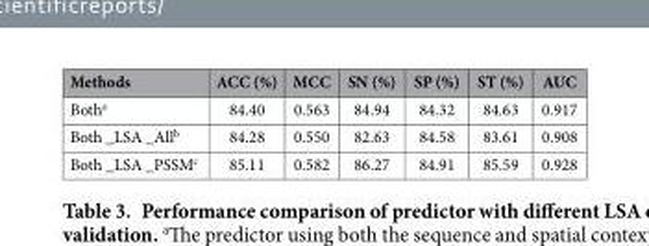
<table><thead><tr><td>Methods</td><td>ACC (%)</td><td>MCC</td><td>SN (%)</td><td>SP (%)</td><td>ST (%)</td><td>AUC</td></tr></thead><tbody><tr><td>Both<sup>a</sup></td><td>84.40</td><td>0.563</td><td>84.94</td><td>84.32</td><td>84.63</td><td>0.917</td></tr><tr><td>Both _LSA _All<sup>b</sup></td><td>84.28</td><td>0.550</td><td>82.63</td><td>84.58</td><td>83.61</td><td>0.908</td></tr><tr><td>Both _LSA _PSSM<sup>c</sup></td><td>85.11</td><td>0.582</td><td>86.27</td><td>84.91</td><td>85.59</td><td>0.928</td></tr></tbody></table>